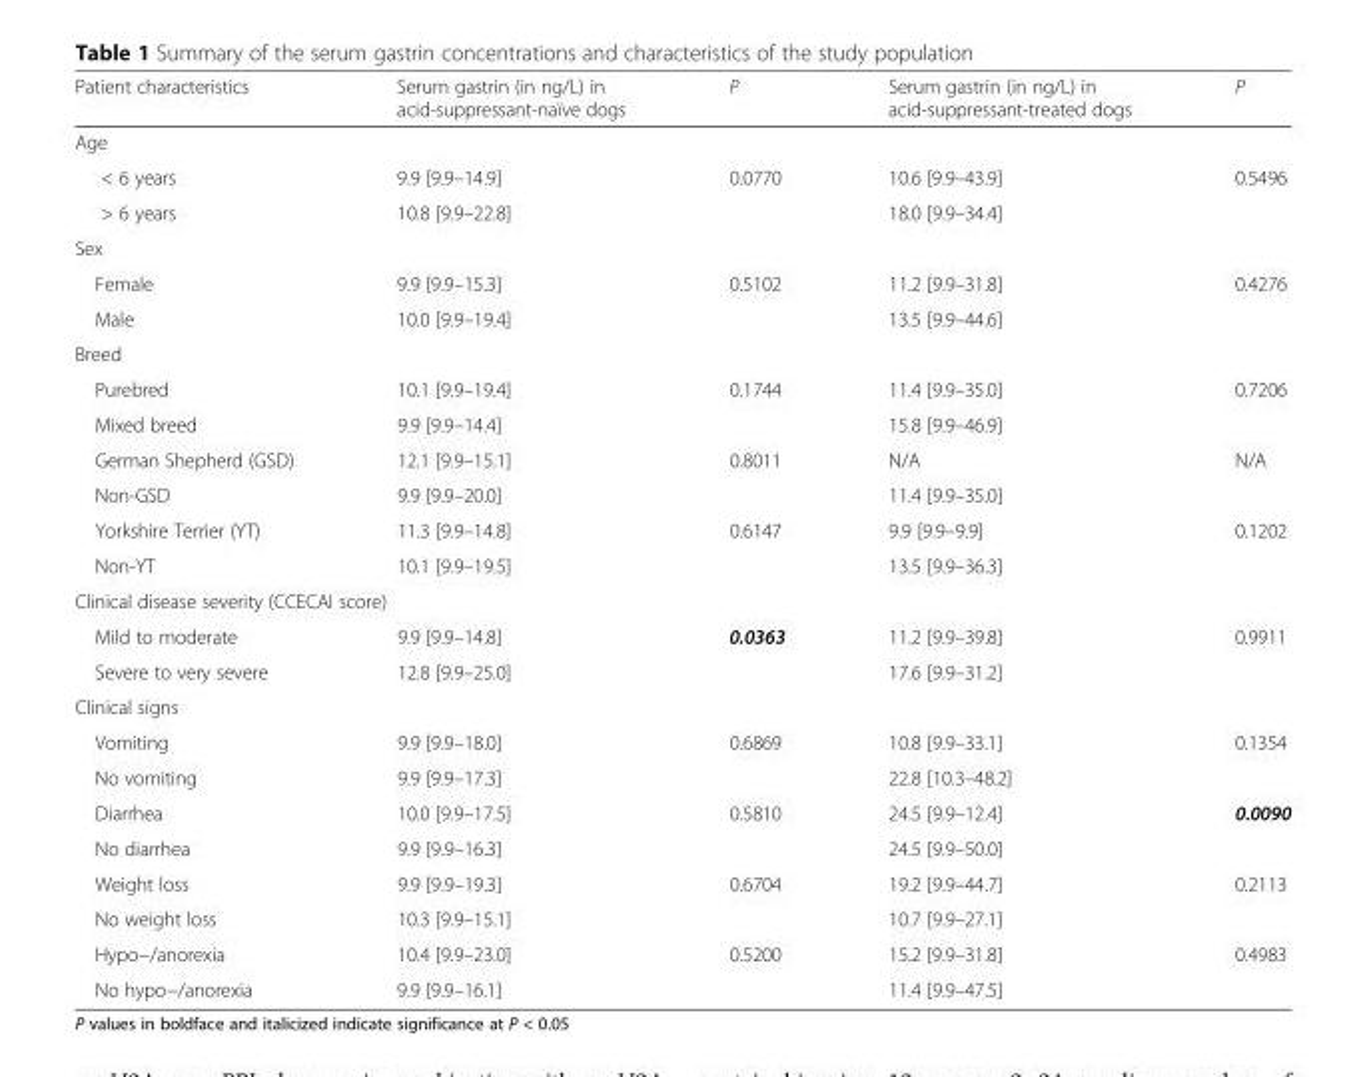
<table><thead><tr><td>Patient characteristics</td><td>Serum gastrin (in ng/L) in acid-suppressant-naïve dogs</td><td>P</td><td>Serum gastrin (in ng/L) in acid-suppressant-treated dogs</td><td>P</td></tr></thead><tbody><tr><td colspan="5">Age</td></tr><tr><td>&lt; 6 years</td><td>9.9 [9.9–14.9]</td><td rowspan="2">0.0770</td><td>10.6 [9.9–43.9]</td><td rowspan="2">0.5496</td></tr><tr><td>&gt; 6 years</td><td>10.8 [9.9–22.8]</td><td>18.0 [9.9–34.4]</td></tr><tr><td colspan="5">Sex</td></tr><tr><td>Female</td><td>9.9 [9.9–15.3]</td><td rowspan="2">0.5102</td><td>11.2 [9.9–31.8]</td><td rowspan="2">0.4276</td></tr><tr><td>Male</td><td>10.0 [9.9–19.4]</td><td>13.5 [9.9–44.6]</td></tr><tr><td colspan="5">Breed</td></tr><tr><td>Purebred</td><td>10.1 [9.9–19.4]</td><td rowspan="2">0.1744</td><td>11.4 [9.9–35.0]</td><td rowspan="2">0.7206</td></tr><tr><td>Mixed breed</td><td>9.9 [9.9–14.4]</td><td>15.8 [9.9–46.9]</td></tr><tr><td>German Shepherd (GSD)</td><td>12.1 [9.9–15.1]</td><td rowspan="2">0.8011</td><td>N/A</td><td rowspan="2">N/A</td></tr><tr><td>Non-GSD</td><td>9.9 [9.9–20.0]</td><td>11.4 [9.9–35.0]</td></tr><tr><td>Yorkshire Terrier (YT)</td><td>11.3 [9.9–14.8]</td><td rowspan="2">0.6147</td><td>9.9 [9.9–9.9]</td><td rowspan="2">0.1202</td></tr><tr><td>Non-YT</td><td>10.1 [9.9–19.5]</td><td>13.5 [9.9–36.3]</td></tr><tr><td colspan="5">Clinical disease severity (CCECAI score)</td></tr><tr><td>Mild to moderate</td><td>9.9 [9.9–14.8]</td><td rowspan="2">0.0363</td><td>11.2 [9.9–39.8]</td><td rowspan="2">0.9911</td></tr><tr><td>Severe to very severe</td><td>12.8 [9.9–25.0]</td><td>17.6 [9.9–31.2]</td></tr><tr><td colspan="5">Clinical signs</td></tr><tr><td>Vomiting</td><td>9.9 [9.9–18.0]</td><td rowspan="2">0.6869</td><td>10.8 [9.9–33.1]</td><td rowspan="2">0.1354</td></tr><tr><td>No vomiting</td><td>9.9 [9.9–17.3]</td><td>22.8 [10.3–48.2]</td></tr><tr><td>Diarrhea</td><td>10.0 [9.9–17.5]</td><td rowspan="2">0.5810</td><td>24.5 [9.9–12.4]</td><td rowspan="2">0.0090</td></tr><tr><td>No diarrhea</td><td>9.9 [9.9–16.3]</td><td>24.5 [9.9–50.0]</td></tr><tr><td>Weight loss</td><td>9.9 [9.9–19.3]</td><td rowspan="2">0.6704</td><td>19.2 [9.9–44.7]</td><td rowspan="2">0.2113</td></tr><tr><td>No weight loss</td><td>10.3 [9.9–15.1]</td><td>10.7 [9.9–27.1]</td></tr><tr><td>Hypo−/anorexia</td><td>10.4 [9.9–23.0]</td><td rowspan="2">0.5200</td><td>15.2 [9.9–31.8]</td><td rowspan="2">0.4983</td></tr><tr><td>No hypo−/anorexia</td><td>9.9 [9.9–16.1]</td><td>11.4 [9.9–47.5]</td></tr></tbody></table>